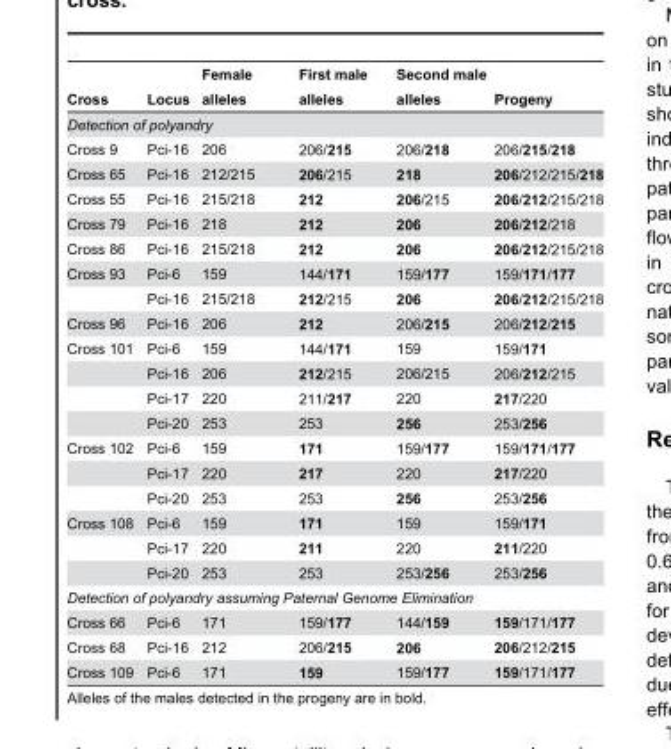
<table><thead><tr><td>Cross</td><td>Locus</td><td>Female alleles</td><td>First male alleles</td><td>Second male alleles</td><td>Progeny</td></tr></thead><tbody><tr><td colspan="6">Detection of polyandry</td></tr><tr><td>Cross 9</td><td>Pci-16</td><td>206</td><td>206/215</td><td>206/218</td><td>206/215/218</td></tr><tr><td>Cross 65</td><td>Pci-16</td><td>212/215</td><td>206/215</td><td>218</td><td>206/212/215/218</td></tr><tr><td>Cross 55</td><td>Pci-16</td><td>215/218</td><td>212</td><td>206/215</td><td>206/212/215/218</td></tr><tr><td>Cross 79</td><td>Pci-16</td><td>218</td><td>212</td><td>206</td><td>206/212/218</td></tr><tr><td>Cross 86</td><td>Pci-16</td><td>215/218</td><td>212</td><td>206</td><td>206/212/215/218</td></tr><tr><td rowspan="2">Cross 93</td><td>Pci-6</td><td>159</td><td>144/171</td><td>159/177</td><td>159/171/177</td></tr><tr><td>Pci-16</td><td>215/218</td><td>212/215</td><td>206</td><td>206/212/215/218</td></tr><tr><td>Cross 96</td><td>Pci-16</td><td>206</td><td>212</td><td>206/215</td><td>206/212/215</td></tr><tr><td rowspan="4">Cross 101</td><td>Pci-6</td><td>159</td><td>144/171</td><td>159</td><td>159/171</td></tr><tr><td>Pci-16</td><td>206</td><td>212/215</td><td>206/215</td><td>206/212/215</td></tr><tr><td>Pci-17</td><td>220</td><td>211/217</td><td>220</td><td>217/220</td></tr><tr><td>Pci-20</td><td>253</td><td>253</td><td>256</td><td>253/256</td></tr><tr><td rowspan="3">Cross 102</td><td>Pci-6</td><td>159</td><td>171</td><td>159/177</td><td>159/171/177</td></tr><tr><td>Pci-17</td><td>220</td><td>217</td><td>220</td><td>217/220</td></tr><tr><td>Pci-20</td><td>253</td><td>253</td><td>256</td><td>253/256</td></tr><tr><td rowspan="3">Cross 108</td><td>Pci-6</td><td>159</td><td>171</td><td>159</td><td>159/171</td></tr><tr><td>Pci-17</td><td>220</td><td>211</td><td>220</td><td>211/220</td></tr><tr><td>Pci-20</td><td>253</td><td>253</td><td>253/256</td><td>253/256</td></tr><tr><td colspan="6">Detection of polyandry assuming Paternal Genome Elimination</td></tr><tr><td>Cross 66</td><td>Pci-6</td><td>171</td><td>159/177</td><td>144/159</td><td>159/171/177</td></tr><tr><td>Cross 68</td><td>Pci-16</td><td>212</td><td>206/215</td><td>206</td><td>206/212/215</td></tr><tr><td>Cross 109</td><td>Pci-6</td><td>171</td><td>159</td><td>159/177</td><td>159/171/177</td></tr></tbody></table>